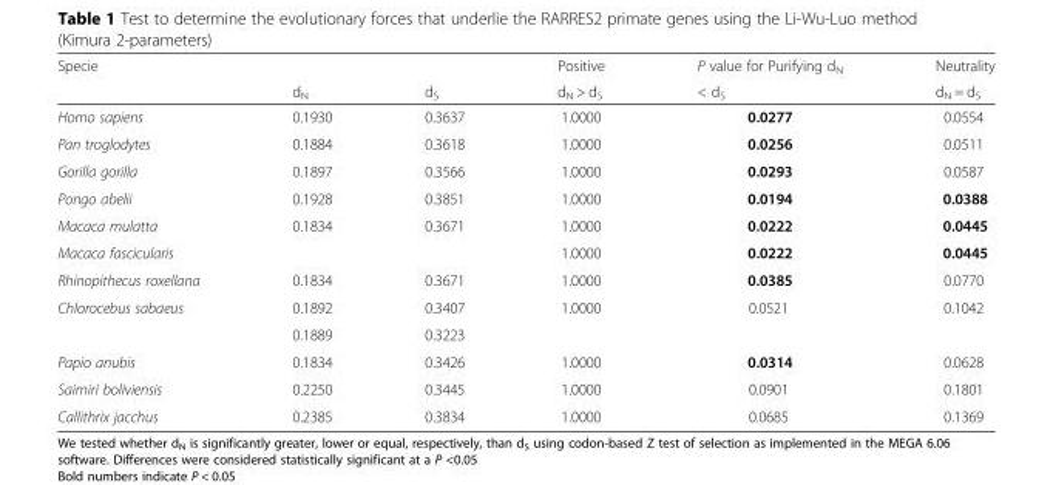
<table><thead><tr><td rowspan="2">Specie</td><td rowspan="2">d<sub>N</sub></td><td rowspan="2">d<sub>S</sub></td><td rowspan="2">Positive d<sub>N</sub> &gt; d<sub>S</sub></td><td rowspan="2">P value for Purifying d<sub>N</sub> &lt; d<sub>S</sub></td><td rowspan="2">Neutrality d<sub>N</sub> = d<sub>S</sub></td></tr><tr></tr></thead><tbody><tr><td>Homo sapiens</td><td>0.1930</td><td>0.3637</td><td>1.0000</td><td>0.0277</td><td>0.0554</td></tr><tr><td>Pan troglodytes</td><td>0.1884</td><td>0.3618</td><td>1.0000</td><td>0.0256</td><td>0.0511</td></tr><tr><td>Gorilla gorilla</td><td>0.1897</td><td>0.3566</td><td>1.0000</td><td>0.0293</td><td>0.0587</td></tr><tr><td>Pongo abelii</td><td>0.1928</td><td>0.3851</td><td>1.0000</td><td>0.0194</td><td>0.0388</td></tr><tr><td>Macaca mulatta</td><td>0.1834</td><td>0.3671</td><td>1.0000</td><td>0.0222</td><td>0.0445</td></tr><tr><td>Macaca fascicularis</td><td></td><td></td><td>1.0000</td><td>0.0222</td><td>0.0445</td></tr><tr><td>Rhinopithecus roxellana</td><td>0.1834</td><td>0.3671</td><td>1.0000</td><td>0.0385</td><td>0.0770</td></tr><tr><td rowspan="2">Chlorocebus sabaeus</td><td>0.1892</td><td>0.3407</td><td rowspan="2">1.0000</td><td rowspan="2">0.0521</td><td rowspan="2">0.1042</td></tr><tr><td>0.1889</td><td>0.3223</td></tr><tr><td>Papio anubis</td><td>0.1834</td><td>0.3426</td><td>1.0000</td><td>0.0314</td><td>0.0628</td></tr><tr><td>Saimiri boliviensis</td><td>0.2250</td><td>0.3445</td><td>1.0000</td><td>0.0901</td><td>0.1801</td></tr><tr><td>Callithrix jacchus</td><td>0.2385</td><td>0.3834</td><td>1.0000</td><td>0.0685</td><td>0.1369</td></tr></tbody></table>